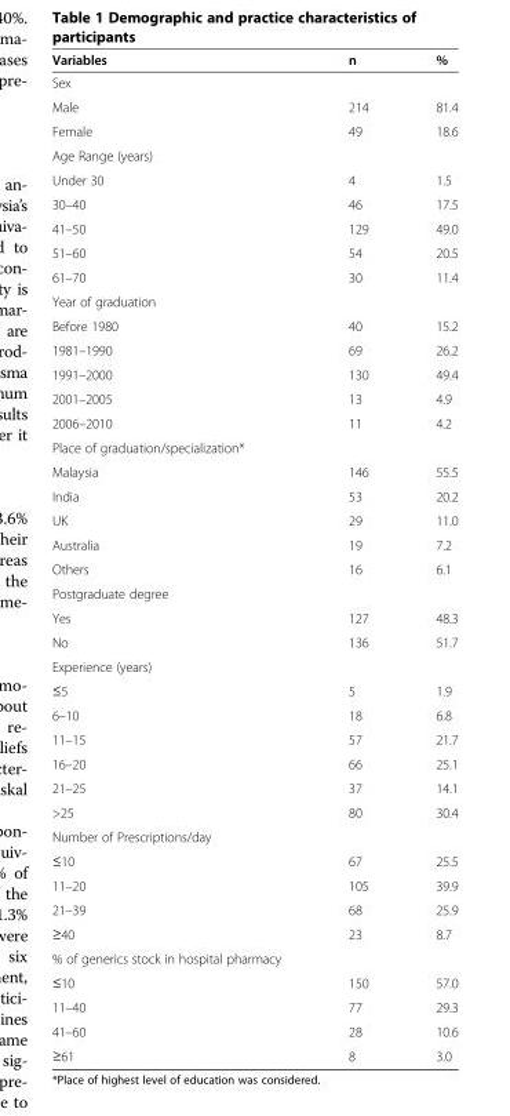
<table><thead><tr><td>Variables</td><td>n</td><td>%</td></tr></thead><tbody><tr><td colspan="3">Sex</td></tr><tr><td>Male</td><td>214</td><td>81.4</td></tr><tr><td>Female</td><td>49</td><td>18.6</td></tr><tr><td colspan="3">Age Range (years)</td></tr><tr><td>Under 30</td><td>4</td><td>1.5</td></tr><tr><td>30–40</td><td>46</td><td>17.5</td></tr><tr><td>41–50</td><td>129</td><td>49.0</td></tr><tr><td>51–60</td><td>54</td><td>20.5</td></tr><tr><td>61–70</td><td>30</td><td>11.4</td></tr><tr><td colspan="3">Year of graduation</td></tr><tr><td>Before 1980</td><td>40</td><td>15.2</td></tr><tr><td>1981–1990</td><td>69</td><td>26.2</td></tr><tr><td>1991–2000</td><td>130</td><td>49.4</td></tr><tr><td>2001–2005</td><td>13</td><td>4.9</td></tr><tr><td>2006–2010</td><td>11</td><td>4.2</td></tr><tr><td colspan="3">Place of graduation/specialization*</td></tr><tr><td>Malaysia</td><td>146</td><td>55.5</td></tr><tr><td>India</td><td>53</td><td>20.2</td></tr><tr><td>UK</td><td>29</td><td>11.0</td></tr><tr><td>Australia</td><td>19</td><td>7.2</td></tr><tr><td>Others</td><td>16</td><td>6.1</td></tr><tr><td colspan="3">Postgraduate degree</td></tr><tr><td>Yes</td><td>127</td><td>48.3</td></tr><tr><td>No</td><td>136</td><td>51.7</td></tr><tr><td colspan="3">Experience (years)</td></tr><tr><td>≤5</td><td>5</td><td>1.9</td></tr><tr><td>6–10</td><td>18</td><td>6.8</td></tr><tr><td>11–15</td><td>57</td><td>21.7</td></tr><tr><td>16–20</td><td>66</td><td>25.1</td></tr><tr><td>21–25</td><td>37</td><td>14.1</td></tr><tr><td>&gt;25</td><td>80</td><td>30.4</td></tr><tr><td colspan="3">Number of Prescriptions/day</td></tr><tr><td>≤10</td><td>67</td><td>25.5</td></tr><tr><td>11–20</td><td>105</td><td>39.9</td></tr><tr><td>21–39</td><td>68</td><td>25.9</td></tr><tr><td>≥40</td><td>23</td><td>8.7</td></tr><tr><td colspan="3">% of generics stock in hospital pharmacy</td></tr><tr><td>≤10</td><td>150</td><td>57.0</td></tr><tr><td>11–40</td><td>77</td><td>29.3</td></tr><tr><td>41–60</td><td>28</td><td>10.6</td></tr><tr><td>≥61</td><td>8</td><td>3.0</td></tr></tbody></table>